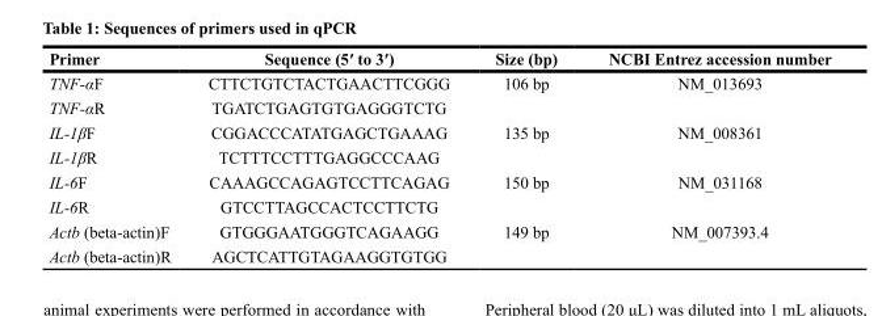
<table><thead><tr><td>Primer</td><td>Sequence (5′ to 3′)</td><td>Size (bp)</td><td>NCBI Entrez accession number</td></tr></thead><tbody><tr><td>TNF-αF</td><td>CTTCTGTCTACTGAACTTCGGG</td><td>106 bp</td><td>NM_013693</td></tr><tr><td>TNF-αR</td><td>TGATCTGAGTGTGAGGGTCTG</td><td></td><td></td></tr><tr><td>IL-1βF</td><td>CGGACCCATATGAGCTGAAAG</td><td>135 bp</td><td>NM_008361</td></tr><tr><td>IL-1βR</td><td>TCTTTCCTTTGAGGCCCAAG</td><td></td><td></td></tr><tr><td>IL-6F</td><td>CAAAGCCAGAGTCCTTCAGAG</td><td>150 bp</td><td>NM_031168</td></tr><tr><td>IL-6R</td><td>GTCCTTAGCCACTCCTTCTG</td><td></td><td></td></tr><tr><td>Actb (beta-actin)F</td><td>GTGGGAATGGGTCAGAAGG</td><td>149 bp</td><td>NM_007393.4</td></tr><tr><td>Actb (beta-actin)R</td><td>AGCTCATTGTAGAAGGTGTGG</td><td></td><td></td></tr></tbody></table>